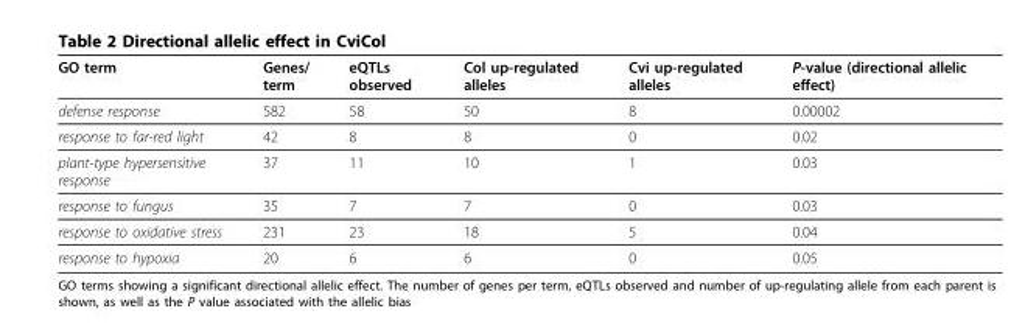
<table><thead><tr><td>GO term</td><td>Genes/ term</td><td>eQTLs observed</td><td>Col up-regulated alleles</td><td>Cvi up-regulated alleles</td><td>P-value (directional allelic effect)</td></tr></thead><tbody><tr><td>defense response</td><td>582</td><td>58</td><td>50</td><td>8</td><td>0.00002</td></tr><tr><td>response to far-red light</td><td>42</td><td>8</td><td>8</td><td>0</td><td>0.02</td></tr><tr><td>plant-type hypersensitive response</td><td>37</td><td>11</td><td>10</td><td>1</td><td>0.03</td></tr><tr><td>response to fungus</td><td>35</td><td>7</td><td>7</td><td>0</td><td>0.03</td></tr><tr><td>response to oxidative stress</td><td>231</td><td>23</td><td>18</td><td>5</td><td>0.04</td></tr><tr><td>response to hypoxia</td><td>20</td><td>6</td><td>6</td><td>0</td><td>0.05</td></tr></tbody></table>